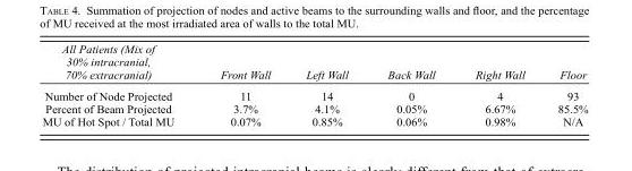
<table><thead><tr><td>All Patients (Mix of 30% intracranial, 70% extracranial)</td><td>Front Wall</td><td>Left Wall</td><td>Back Wall</td><td>Right Wall</td><td>Floor</td></tr></thead><tbody><tr><td>Number of Node Projected</td><td>11</td><td>14</td><td>0</td><td>4</td><td>93</td></tr><tr><td>Percent of Beam Projected</td><td>3.7%</td><td>4.1%</td><td>0.05%</td><td>6.67%</td><td>85.5%</td></tr><tr><td>MU of Hot Spot / Total MU</td><td>0.07%</td><td>0.85%</td><td>0.06%</td><td>0.98%</td><td>N/A</td></tr></tbody></table>